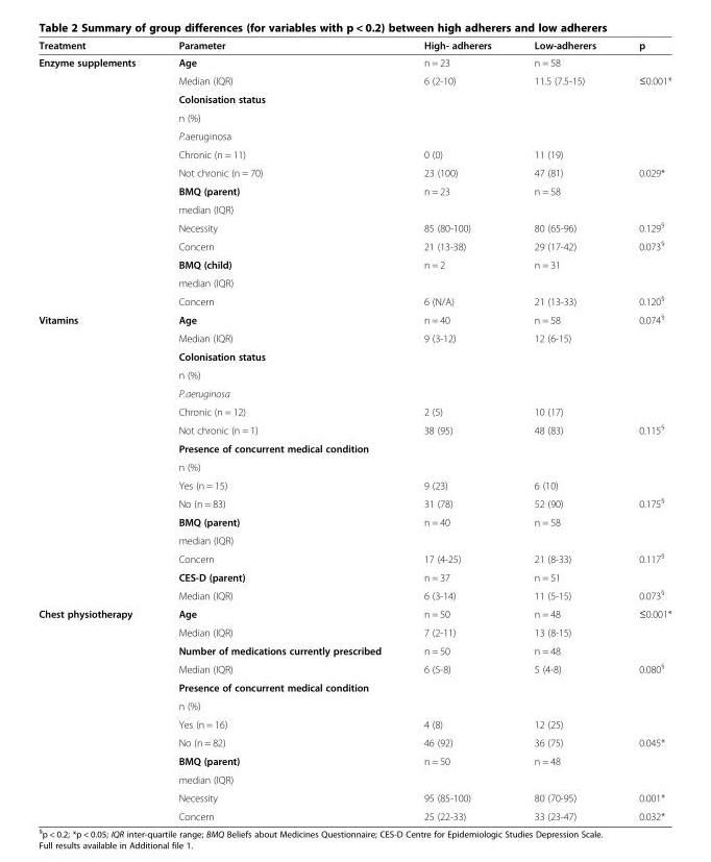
<table><thead><tr><td>Treatment</td><td>Parameter</td><td>High- adherers</td><td>Low-adherers</td><td>p</td></tr></thead><tbody><tr><td rowspan="14">Enzyme supplements</td><td>Age</td><td>n = 23</td><td>n = 58</td><td></td></tr><tr><td>Median (IQR)</td><td>6 (2-10)</td><td>11.5 (7.5-15)</td><td>≤0.001*</td></tr><tr><td>Colonisation status</td><td></td><td></td><td></td></tr><tr><td>n (%)</td><td></td><td></td><td></td></tr><tr><td>P.aeruginosa</td><td></td><td></td><td></td></tr><tr><td>Chronic (n = 11)</td><td>0 (0)</td><td>11 (19)</td><td></td></tr><tr><td>Not chronic (n = 70)</td><td>23 (100)</td><td>47 (81)</td><td>0.029*</td></tr><tr><td>BMQ (parent)</td><td>n = 23</td><td>n = 58</td><td></td></tr><tr><td>median (IQR)</td><td></td><td></td><td></td></tr><tr><td>Necessity</td><td>85 (80-100)</td><td>80 (65-96)</td><td>0.129<sup>§</sup></td></tr><tr><td>Concern</td><td>21 (13-38)</td><td>29 (17-42)</td><td>0.073<sup>§</sup></td></tr><tr><td>BMQ (child)</td><td>n = 2</td><td>n = 31</td><td></td></tr><tr><td>median (IQR)</td><td></td><td></td><td></td></tr><tr><td>Concern</td><td>6 (N/A)</td><td>21 (13-33)</td><td>0.120<sup>§</sup></td></tr><tr><td rowspan="16">Vitamins</td><td>Age</td><td>n = 40</td><td>n = 58</td><td>0.074<sup>§</sup></td></tr><tr><td>Median (IQR)</td><td>9 (3-12)</td><td>12 (6-15)</td><td></td></tr><tr><td>Colonisation status</td><td></td><td></td><td></td></tr><tr><td>n (%)</td><td></td><td></td><td></td></tr><tr><td>P.aeruginosa</td><td></td><td></td><td></td></tr><tr><td>Chronic (n = 12)</td><td>2 (5)</td><td>10 (17)</td><td></td></tr><tr><td>Not chronic (n = 1)</td><td>38 (95)</td><td>48 (83)</td><td>0.115<sup>§</sup></td></tr><tr><td>Presence of concurrent medical condition</td><td></td><td></td><td></td></tr><tr><td>n (%)</td><td></td><td></td><td></td></tr><tr><td>Yes (n = 15)</td><td>9 (23)</td><td>6 (10)</td><td></td></tr><tr><td>No (n = 83)</td><td>31 (78)</td><td>52 (90)</td><td>0.175<sup>§</sup></td></tr><tr><td>BMQ (parent)</td><td>n = 40</td><td>n = 58</td><td></td></tr><tr><td>median (IQR)</td><td></td><td></td><td></td></tr><tr><td>Concern</td><td>17 (4-25)</td><td>21 (8-33)</td><td>0.117<sup>§</sup></td></tr><tr><td>CES-D (parent)</td><td>n = 37</td><td>n = 51</td><td></td></tr><tr><td>Median (IQR)</td><td>6 (3-14)</td><td>11 (5-15)</td><td>0.073<sup>§</sup></td></tr><tr><td rowspan="12">Chest physiotherapy</td><td>Age</td><td>n = 50</td><td>n = 48</td><td rowspan="2">≤0.001*</td></tr><tr><td>Median (IQR)</td><td>7 (2-11)</td><td>13 (8-15)</td></tr><tr><td>Number of medications currently prescribed</td><td>n = 50</td><td>n = 48</td><td></td></tr><tr><td>Median (IQR)</td><td>6 (5-8)</td><td>5 (4-8)</td><td>0.080<sup>§</sup></td></tr><tr><td>Presence of concurrent medical condition</td><td></td><td></td><td></td></tr><tr><td>n (%)</td><td></td><td></td><td></td></tr><tr><td>Yes (n = 16)</td><td>4 (8)</td><td>12 (25)</td><td></td></tr><tr><td>No (n = 82)</td><td>46 (92)</td><td>36 (75)</td><td>0.045*</td></tr><tr><td>BMQ (parent)</td><td>n = 50</td><td>n = 48</td><td></td></tr><tr><td>median (IQR)</td><td></td><td></td><td></td></tr><tr><td>Necessity</td><td>95 (85-100)</td><td>80 (70-95)</td><td>0.001*</td></tr><tr><td>Concern</td><td>25 (22-33)</td><td>33 (23-47)</td><td>0.032*</td></tr></tbody></table>